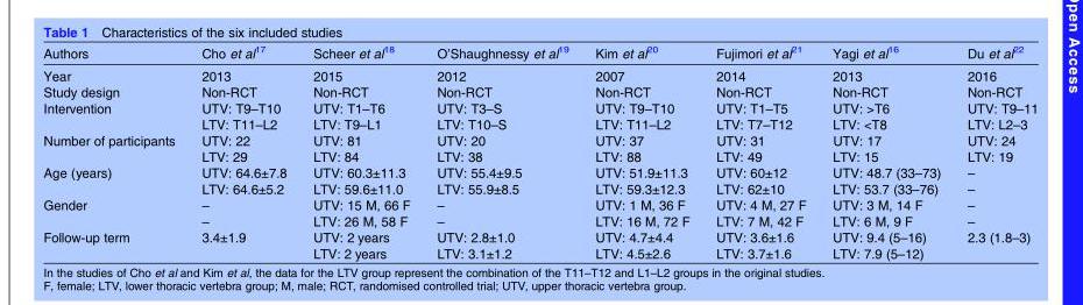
<table><tbody><tr><td>Authors</td><td>Cho et al<sup>17</sup></td><td>Scheer et al<sup>18</sup></td><td>O’Shaughnessy et al<sup>19</sup></td><td>Kim et al<sup>20</sup></td><td>Fujimori et al<sup>21</sup></td><td>Yagi et al<sup>16</sup></td><td>Du et al<sup>22</sup></td></tr><tr><td>Year</td><td>2013</td><td>2015</td><td>2012</td><td>2007</td><td>2014</td><td>2013</td><td>2016</td></tr><tr><td>Study design</td><td>Non-RCT</td><td>Non-RCT</td><td>Non-RCT</td><td>Non-RCT</td><td>Non-RCT</td><td>Non-RCT</td><td>Non-RCT</td></tr><tr><td rowspan="2">Intervention</td><td>UTV: T9–T10</td><td>UTV: T1–T6</td><td>UTV: T3–S</td><td>UTV: T9–T10</td><td>UTV: T1–T5</td><td>UTV: &gt;T6</td><td>UTV: T9–11</td></tr><tr><td>LTV: T11–L2</td><td>LTV: T9–L1</td><td>LTV: T10–S</td><td>LTV: T11–L2</td><td>LTV: T7–T12</td><td>LTV: &lt;T8</td><td>LTV: L2–3</td></tr><tr><td rowspan="2">Number of participants</td><td>UTV: 22</td><td>UTV: 81</td><td>UTV: 20</td><td>UTV: 37</td><td>UTV: 31</td><td>UTV: 17</td><td>UTV: 24</td></tr><tr><td>LTV: 29</td><td>LTV: 84</td><td>LTV: 38</td><td>LTV: 88</td><td>LTV: 49</td><td>LTV: 15</td><td>LTV: 19</td></tr><tr><td rowspan="2">Age (years)</td><td>UTV: 64.6±7.8</td><td>UTV: 60.3±11.3</td><td>UTV: 55.4±9.5</td><td>UTV: 51.9±11.3</td><td>UTV: 60±12</td><td>UTV: 48.7 (33–73)</td><td>–</td></tr><tr><td>LTV: 64.6±5.2</td><td>LTV: 59.6±11.0</td><td>LTV: 55.9±8.5</td><td>LTV: 59.3±12.3</td><td>LTV: 62±10</td><td>LTV: 53.7 (33–76)</td><td>–</td></tr><tr><td rowspan="2">Gender</td><td>–</td><td>UTV: 15 M, 66 F</td><td>–</td><td>UTV: 1 M, 36 F</td><td>UTV: 4 M, 27 F</td><td>UTV: 3 M, 14 F</td><td>–</td></tr><tr><td>–</td><td>LTV: 26 M, 58 F</td><td>–</td><td>LTV: 16 M, 72 F</td><td>LTV: 7 M, 42 F</td><td>LTV: 6 M, 9 F</td><td>–</td></tr><tr><td rowspan="2">Follow-up term</td><td rowspan="2">3.4±1.9</td><td>UTV: 2 years</td><td>UTV: 2.8±1.0</td><td>UTV: 4.7±4.4</td><td>UTV: 3.6±1.6</td><td>UTV: 9.4 (5–16)</td><td rowspan="2">2.3 (1.8–3)</td></tr><tr><td>LTV: 2 years</td><td>LTV: 3.1±1.2</td><td>LTV: 4.5±2.6</td><td>LTV: 3.7±1.6</td><td>LTV: 7.9 (5–12)</td></tr></tbody></table>